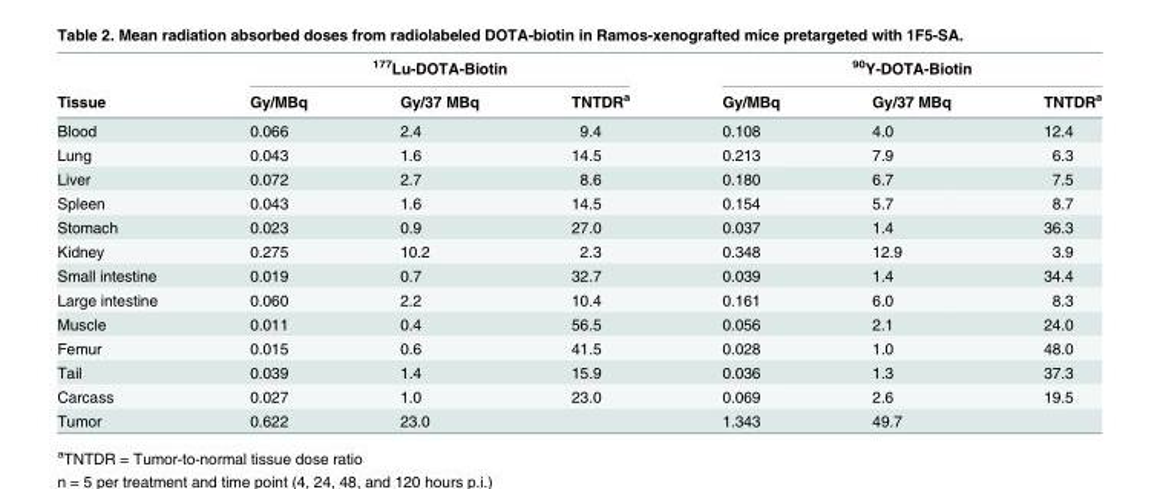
<table><thead><tr><td rowspan="2">Tissue</td><td colspan="3"><sup>177</sup>Lu-DOTA-Biotin</td><td colspan="3"><sup>90</sup>Y-DOTA-Biotin</td></tr><tr><td>Gy/MBq</td><td>Gy/37 MBq</td><td>TNTDR<sup>a</sup></td><td>Gy/MBq</td><td>Gy/37 MBq</td><td>TNTDR<sup>a</sup></td></tr></thead><tbody><tr><td>Blood</td><td>0.066</td><td>2.4</td><td>9.4</td><td>0.108</td><td>4.0</td><td>12.4</td></tr><tr><td>Lung</td><td>0.043</td><td>1.6</td><td>14.5</td><td>0.213</td><td>7.9</td><td>6.3</td></tr><tr><td>Liver</td><td>0.072</td><td>2.7</td><td>8.6</td><td>0.180</td><td>6.7</td><td>7.5</td></tr><tr><td>Spleen</td><td>0.043</td><td>1.6</td><td>14.5</td><td>0.154</td><td>5.7</td><td>8.7</td></tr><tr><td>Stomach</td><td>0.023</td><td>0.9</td><td>27.0</td><td>0.037</td><td>1.4</td><td>36.3</td></tr><tr><td>Kidney</td><td>0.275</td><td>10.2</td><td>2.3</td><td>0.348</td><td>12.9</td><td>3.9</td></tr><tr><td>Small intestine</td><td>0.019</td><td>0.7</td><td>32.7</td><td>0.039</td><td>1.4</td><td>34.4</td></tr><tr><td>Large intestine</td><td>0.060</td><td>2.2</td><td>10.4</td><td>0.161</td><td>6.0</td><td>8.3</td></tr><tr><td>Muscle</td><td>0.011</td><td>0.4</td><td>56.5</td><td>0.056</td><td>2.1</td><td>24.0</td></tr><tr><td>Femur</td><td>0.015</td><td>0.6</td><td>41.5</td><td>0.028</td><td>1.0</td><td>48.0</td></tr><tr><td>Tail</td><td>0.039</td><td>1.4</td><td>15.9</td><td>0.036</td><td>1.3</td><td>37.3</td></tr><tr><td>Carcass</td><td>0.027</td><td>1.0</td><td>23.0</td><td>0.069</td><td>2.6</td><td>19.5</td></tr><tr><td>Tumor</td><td>0.622</td><td>23.0</td><td></td><td>1.343</td><td>49.7</td><td></td></tr></tbody></table>